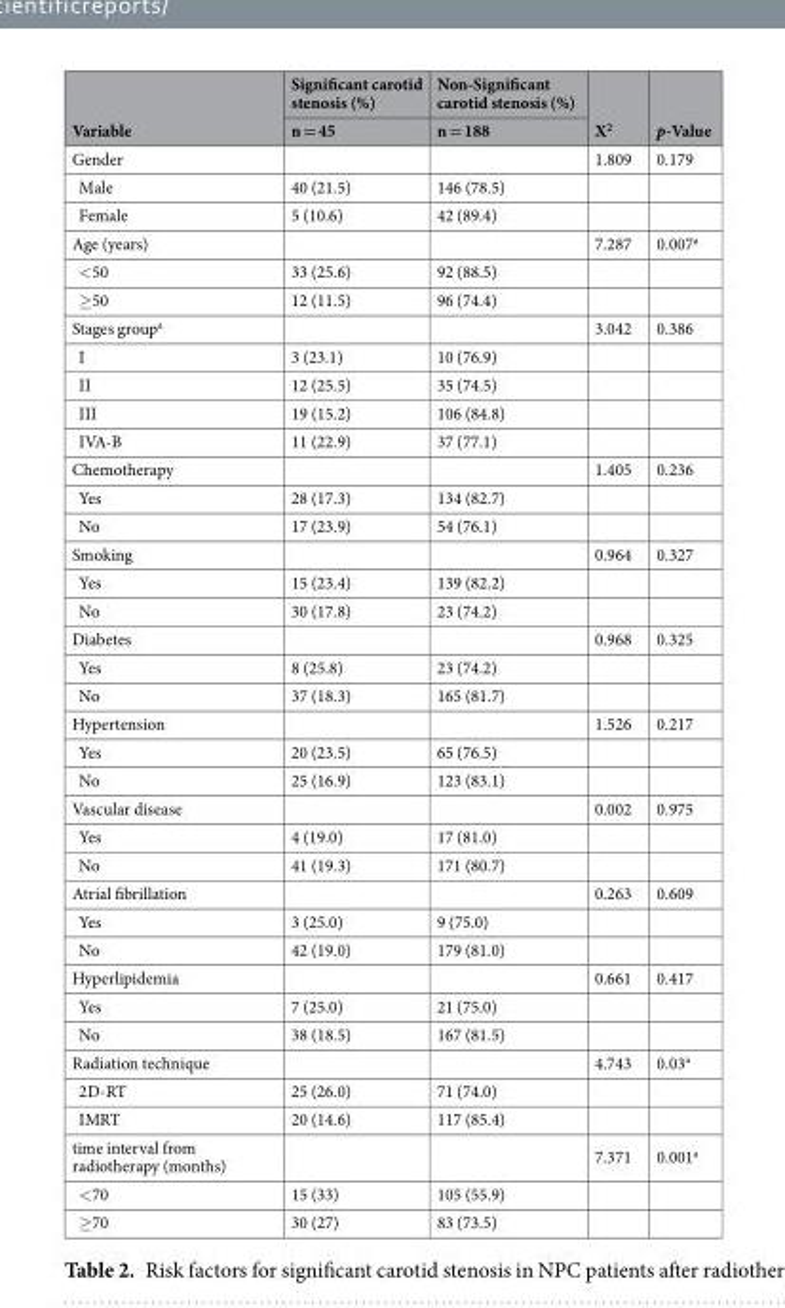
<table><thead><tr><td rowspan="2">Variable</td><td rowspan="2">Significant carotid stenosis (%) n = 45</td><td rowspan="2">Non-Significant carotid stenosis (%) n = 188</td><td rowspan="2">X<sup>2</sup></td><td rowspan="2">p-Value</td></tr><tr></tr></thead><tbody><tr><td>Gender</td><td></td><td></td><td>1.809</td><td>0.179</td></tr><tr><td>Male</td><td>40 (21.5)</td><td>146 (78.5)</td><td></td><td></td></tr><tr><td>Female</td><td>5 (10.6)</td><td>42 (89.4)</td><td></td><td></td></tr><tr><td>Age (years)</td><td></td><td></td><td>7.287</td><td>0.007<sup>a</sup></td></tr><tr><td>&lt;50</td><td>33 (25.6)</td><td>92 (88.5)</td><td></td><td></td></tr><tr><td>≥50</td><td>12 (11.5)</td><td>96 (74.4)</td><td></td><td></td></tr><tr><td>Stages group<sup>a</sup></td><td></td><td></td><td>3.042</td><td>0.386</td></tr><tr><td>I</td><td>3 (23.1)</td><td>10 (76.9)</td><td></td><td></td></tr><tr><td>II</td><td>12 (25.5)</td><td>35 (74.5)</td><td></td><td></td></tr><tr><td>III</td><td>19 (15.2)</td><td>106 (84.8)</td><td></td><td></td></tr><tr><td>IVA-B</td><td>11 (22.9)</td><td>37 (77.1)</td><td></td><td></td></tr><tr><td>Chemotherapy</td><td></td><td></td><td>1.405</td><td>0.236</td></tr><tr><td>Yes</td><td>28 (17.3)</td><td>134 (82.7)</td><td></td><td></td></tr><tr><td>No</td><td>17 (23.9)</td><td>54 (76.1)</td><td></td><td></td></tr><tr><td>Smoking</td><td></td><td></td><td>0.964</td><td>0.327</td></tr><tr><td>Yes</td><td>15 (23.4)</td><td>139 (82.2)</td><td></td><td></td></tr><tr><td>No</td><td>30 (17.8)</td><td>23 (74.2)</td><td></td><td></td></tr><tr><td>Diabetes</td><td></td><td></td><td>0.968</td><td>0.325</td></tr><tr><td>Yes</td><td>8 (25.8)</td><td>23 (74.2)</td><td></td><td></td></tr><tr><td>No</td><td>37 (18.3)</td><td>165 (81.7)</td><td></td><td></td></tr><tr><td>Hypertension</td><td></td><td></td><td>1.526</td><td>0.217</td></tr><tr><td>Yes</td><td>20 (23.5)</td><td>65 (76.5)</td><td></td><td></td></tr><tr><td>No</td><td>25 (16.9)</td><td>123 (83.1)</td><td></td><td></td></tr><tr><td>Vascular disease</td><td></td><td></td><td>0.002</td><td>0.975</td></tr><tr><td>Yes</td><td>4 (19.0)</td><td>17 (81.0)</td><td></td><td></td></tr><tr><td>No</td><td>41 (19.3)</td><td>171 (80.7)</td><td></td><td></td></tr><tr><td>Atrial fibrillation</td><td></td><td></td><td>0.263</td><td>0.609</td></tr><tr><td>Yes</td><td>3 (25.0)</td><td>9 (75.0)</td><td></td><td></td></tr><tr><td>No</td><td>42 (19.0)</td><td>179 (81.0)</td><td></td><td></td></tr><tr><td>Hyperlipidemia</td><td></td><td></td><td>0.661</td><td>0.417</td></tr><tr><td>Yes</td><td>7 (25.0)</td><td>21 (75.0)</td><td></td><td></td></tr><tr><td>No</td><td>38 (18.5)</td><td>167 (81.5)</td><td></td><td></td></tr><tr><td>Radiation technique</td><td></td><td></td><td>4.743</td><td>0.03<sup>a</sup></td></tr><tr><td>2D-RT</td><td>25 (26.0)</td><td>71 (74.0)</td><td></td><td></td></tr><tr><td>IMRT</td><td>20 (14.6)</td><td>117 (85.4)</td><td></td><td></td></tr><tr><td>time interval from radiotherapy (months)</td><td></td><td></td><td>7.371</td><td>0.001<sup>a</sup></td></tr><tr><td>&lt;70</td><td>15 (33)</td><td>105 (55.9)</td><td></td><td></td></tr><tr><td>≥70</td><td>30 (27)</td><td>83 (73.5)</td><td></td><td></td></tr></tbody></table>